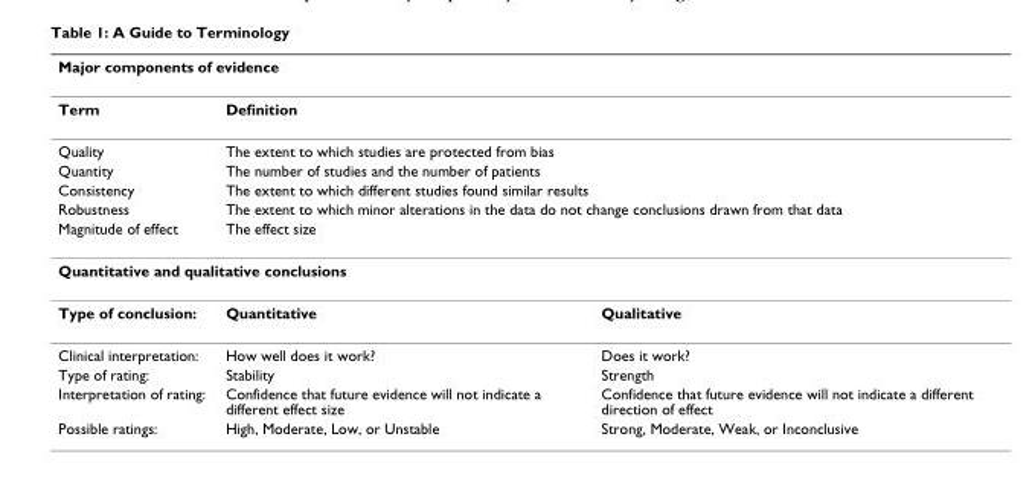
<table><thead><tr><td colspan="3">Major components of evidence</td></tr></thead><tbody><tr><td>Term</td><td colspan="2">Definition</td></tr><tr><td>Quality</td><td colspan="2">The extent to which studies are protected from bias</td></tr><tr><td>Quantity</td><td colspan="2">The number of studies and the number of patients</td></tr><tr><td>Consistency</td><td colspan="2">The extent to which different studies found similar results</td></tr><tr><td>Robustness</td><td colspan="2">The extent to which minor alterations in the data do not change conclusions drawn from that data</td></tr><tr><td>Magnitude of effect</td><td colspan="2">The effect size</td></tr><tr><td colspan="3">Quantitative and qualitative conclusions</td></tr><tr><td>Type of conclusion:</td><td>Quantitative</td><td>Qualitative</td></tr><tr><td>Clinical interpretation:</td><td>How well does it work?</td><td>Does it work?</td></tr><tr><td>Type of rating:</td><td>Stability</td><td>Strength</td></tr><tr><td>Interpretation of rating:</td><td>Confidence that future evidence will not indicate a different effect size</td><td>Confidence that future evidence will not indicate a different direction of effect</td></tr><tr><td>Possible ratings:</td><td>High, Moderate, Low, or Unstable</td><td>Strong, Moderate, Weak, or Inconclusive</td></tr></tbody></table>